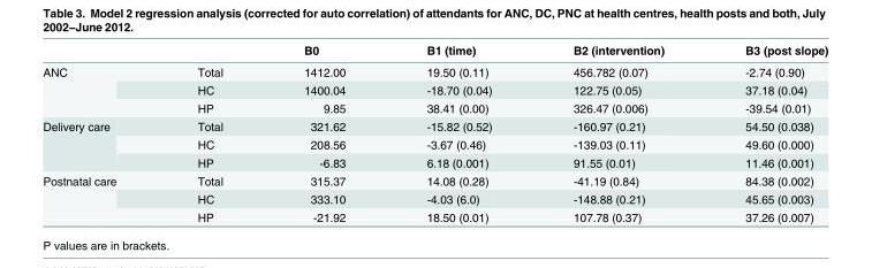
<table><thead><tr><td></td><td></td><td>B0</td><td>B1 (time)</td><td>B2 (intervention)</td><td>B3 (post slope)</td></tr></thead><tbody><tr><td rowspan="3">ANC</td><td>Total</td><td>1412.00</td><td>19.50 (0.11)</td><td>456.782 (0.07)</td><td>-2.74 (0.90)</td></tr><tr><td>HC</td><td>1400.04</td><td>-18.70 (0.04)</td><td>122.75 (0.05)</td><td>37.18 (0.04)</td></tr><tr><td>HP</td><td>9.85</td><td>38.41 (0.00)</td><td>326.47 (0.006)</td><td>-39.54 (0.01)</td></tr><tr><td rowspan="3">Delivery care</td><td>Total</td><td>321.62</td><td>-15.82 (0.52)</td><td>-160.97 (0.21)</td><td>54.50 (0.038)</td></tr><tr><td>HC</td><td>208.56</td><td>-3.67 (0.46)</td><td>-139.03 (0.11)</td><td>49.60 (0.000)</td></tr><tr><td>HP</td><td>-6.83</td><td>6.18 (0.001)</td><td>91.55 (0.01)</td><td>11.46 (0.001)</td></tr><tr><td rowspan="3">Postnatal care</td><td>Total</td><td>315.37</td><td>14.08 (0.28)</td><td>-41.19 (0.84)</td><td>84.38 (0.002)</td></tr><tr><td>HC</td><td>333.10</td><td>-4.03 (6.0)</td><td>-148.88 (0.21)</td><td>45.65 (0.003)</td></tr><tr><td>HP</td><td>-21.92</td><td>18.50 (0.01)</td><td>107.78 (0.37)</td><td>37.26 (0.007)</td></tr></tbody></table>